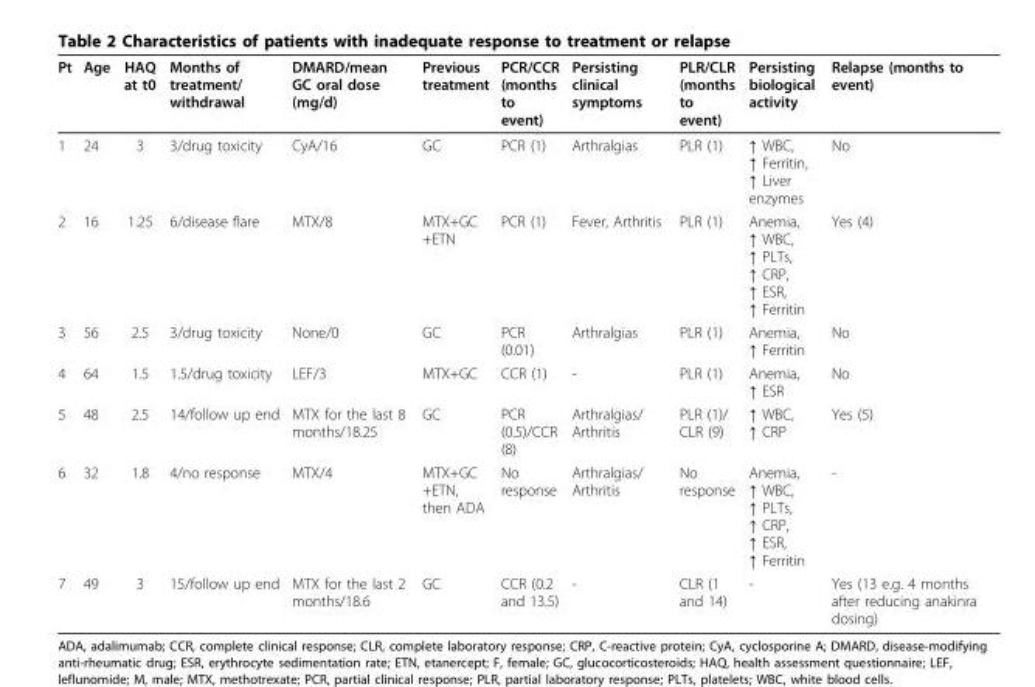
<table><thead><tr><td>Pt</td><td>Age</td><td>HAQ at t0</td><td>Months of treatment/ withdrawal</td><td>DMARD/mean GC oral dose (mg/d)</td><td>Previous treatment</td><td>PCR/CCR (months to event)</td><td>Persisting clinical symptoms</td><td>PLR/CLR (months to event)</td><td>Persisting biological activity</td><td>Relapse (months to event)</td></tr></thead><tbody><tr><td>1</td><td>24</td><td>3</td><td>3/drug toxicity</td><td>CyA/16</td><td>GC</td><td>PCR (1)</td><td>Arthralgias</td><td>PLR (1)</td><td>↑ WBC, ↑ Ferritin, ↑ Liver enzymes</td><td>No</td></tr><tr><td>2</td><td>16</td><td>1.25</td><td>6/disease flare</td><td>MTX/8</td><td>MTX+GC +ETN</td><td>PCR (1)</td><td>Fever, Arthritis</td><td>PLR (1)</td><td>Anemia, ↑ WBC, ↑ PLTs, ↑ CRP, ↑ ESR, ↑ Ferritin</td><td>Yes (4)</td></tr><tr><td>3</td><td>56</td><td>2.5</td><td>3/drug toxicity</td><td>None/0</td><td>GC</td><td>PCR (0.01)</td><td>Arthralgias</td><td>PLR (1)</td><td>Anemia, ↑ Ferritin</td><td>No</td></tr><tr><td>4</td><td>64</td><td>1.5</td><td>1.5/drug toxicity</td><td>LEF/3</td><td>MTX+GC</td><td>CCR (1)</td><td>-</td><td>PLR (1)</td><td>Anemia, ↑ ESR</td><td>No</td></tr><tr><td>5</td><td>48</td><td>2.5</td><td>14/follow up end</td><td>MTX for the last 8 months/18.25</td><td>GC</td><td>PCR (0.5)/CCR (8)</td><td>Arthralgias/ Arthritis</td><td>PLR (1)/ CLR (9)</td><td>↑ WBC, ↑ CRP</td><td>Yes (5)</td></tr><tr><td>6</td><td>32</td><td>1.8</td><td>4/no response</td><td>MTX/4</td><td>MTX+GC +ETN, then ADA</td><td>No response</td><td>Arthralgias/ Arthritis</td><td>No response</td><td>Anemia, ↑ WBC, ↑ PLTs, ↑ CRP, ↑ ESR, ↑ Ferritin</td><td>-</td></tr><tr><td>7</td><td>49</td><td>3</td><td>15/follow up end</td><td>MTX for the last 2 months/18.6</td><td>GC</td><td>CCR (0.2 and 13.5)</td><td>-</td><td>CLR (1 and 14)</td><td>-</td><td>Yes (13 e.g. 4 months after reducing anakinra dosing)</td></tr></tbody></table>